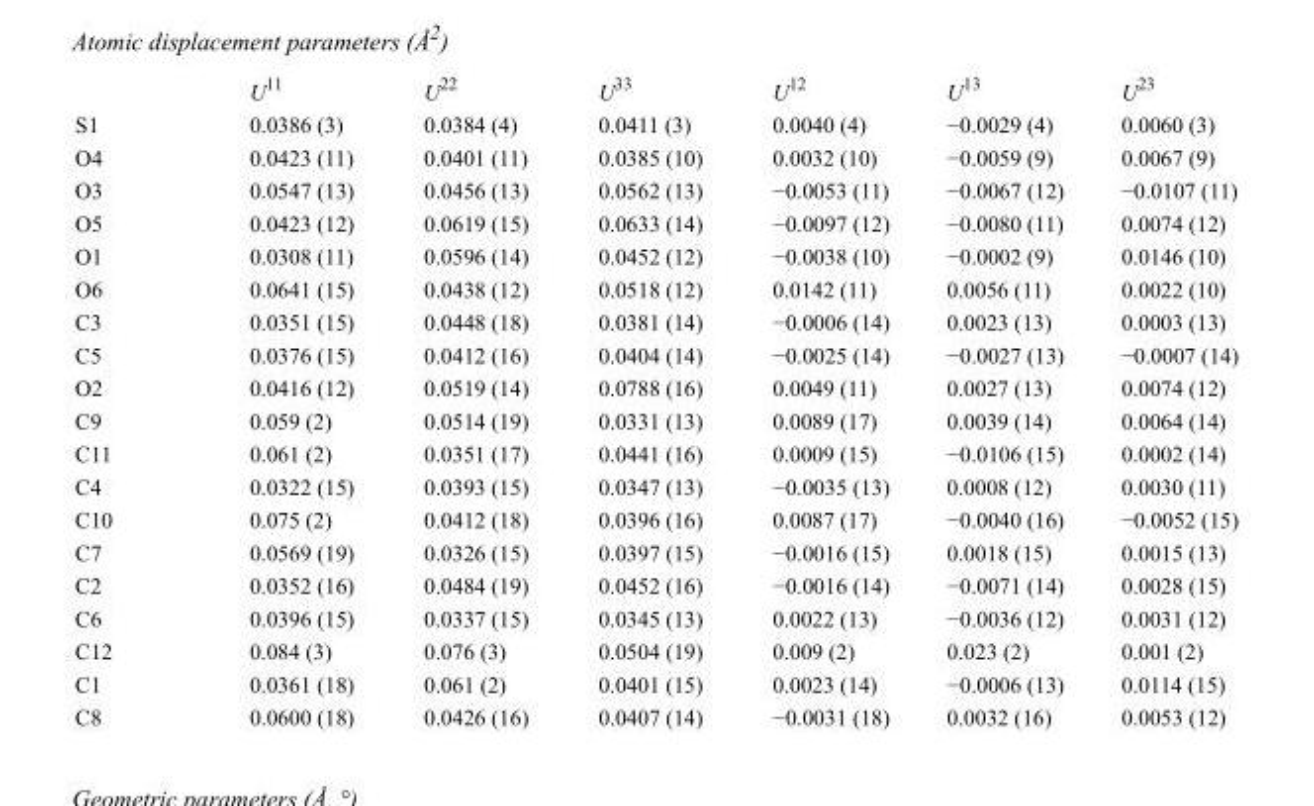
<table><thead><tr><td></td><td>U<sup>11</sup></td><td>U<sup>22</sup></td><td>U<sup>33</sup></td><td>U<sup>12</sup></td><td>U<sup>13</sup></td><td>U<sup>23</sup></td></tr></thead><tbody><tr><td>S1</td><td>0.0386 (3)</td><td>0.0384 (4)</td><td>0.0411 (3)</td><td>0.0040 (4)</td><td>−0.0029 (4)</td><td>0.0060 (3)</td></tr><tr><td>O4</td><td>0.0423 (11)</td><td>0.0401 (11)</td><td>0.0385 (10)</td><td>0.0032 (10)</td><td>−0.0059 (9)</td><td>0.0067 (9)</td></tr><tr><td>O3</td><td>0.0547 (13)</td><td>0.0456 (13)</td><td>0.0562 (13)</td><td>−0.0053 (11)</td><td>−0.0067 (12)</td><td>−0.0107 (11)</td></tr><tr><td>O5</td><td>0.0423 (12)</td><td>0.0619 (15)</td><td>0.0633 (14)</td><td>−0.0097 (12)</td><td>−0.0080 (11)</td><td>0.0074 (12)</td></tr><tr><td>O1</td><td>0.0308 (11)</td><td>0.0596 (14)</td><td>0.0452 (12)</td><td>−0.0038 (10)</td><td>−0.0002 (9)</td><td>0.0146 (10)</td></tr><tr><td>O6</td><td>0.0641 (15)</td><td>0.0438 (12)</td><td>0.0518 (12)</td><td>0.0142 (11)</td><td>0.0056 (11)</td><td>0.0022 (10)</td></tr><tr><td>C3</td><td>0.0351 (15)</td><td>0.0448 (18)</td><td>0.0381 (14)</td><td>−0.0006 (14)</td><td>0.0023 (13)</td><td>0.0003 (13)</td></tr><tr><td>C5</td><td>0.0376 (15)</td><td>0.0412 (16)</td><td>0.0404 (14)</td><td>−0.0025 (14)</td><td>−0.0027 (13)</td><td>−0.0007 (14)</td></tr><tr><td>O2</td><td>0.0416 (12)</td><td>0.0519 (14)</td><td>0.0788 (16)</td><td>0.0049 (11)</td><td>0.0027 (13)</td><td>0.0074 (12)</td></tr><tr><td>C9</td><td>0.059 (2)</td><td>0.0514 (19)</td><td>0.0331 (13)</td><td>0.0089 (17)</td><td>0.0039 (14)</td><td>0.0064 (14)</td></tr><tr><td>C11</td><td>0.061 (2)</td><td>0.0351 (17)</td><td>0.0441 (16)</td><td>0.0009 (15)</td><td>−0.0106 (15)</td><td>0.0002 (14)</td></tr><tr><td>C4</td><td>0.0322 (15)</td><td>0.0393 (15)</td><td>0.0347 (13)</td><td>−0.0035 (13)</td><td>0.0008 (12)</td><td>0.0030 (11)</td></tr><tr><td>C10</td><td>0.075 (2)</td><td>0.0412 (18)</td><td>0.0396 (16)</td><td>0.0087 (17)</td><td>−0.0040 (16)</td><td>−0.0052 (15)</td></tr><tr><td>C7</td><td>0.0569 (19)</td><td>0.0326 (15)</td><td>0.0397 (15)</td><td>−0.0016 (15)</td><td>0.0018 (15)</td><td>0.0015 (13)</td></tr><tr><td>C2</td><td>0.0352 (16)</td><td>0.0484 (19)</td><td>0.0452 (16)</td><td>−0.0016 (14)</td><td>−0.0071 (14)</td><td>0.0028 (15)</td></tr><tr><td>C6</td><td>0.0396 (15)</td><td>0.0337 (15)</td><td>0.0345 (13)</td><td>0.0022 (13)</td><td>−0.0036 (12)</td><td>0.0031 (12)</td></tr><tr><td>C12</td><td>0.084 (3)</td><td>0.076 (3)</td><td>0.0504 (19)</td><td>0.009 (2)</td><td>0.023 (2)</td><td>0.001 (2)</td></tr><tr><td>C1</td><td>0.0361 (18)</td><td>0.061 (2)</td><td>0.0401 (15)</td><td>0.0023 (14)</td><td>−0.0006 (13)</td><td>0.0114 (15)</td></tr><tr><td>C8</td><td>0.0600 (18)</td><td>0.0426 (16)</td><td>0.0407 (14)</td><td>−0.0031 (18)</td><td>0.0032 (16)</td><td>0.0053 (12)</td></tr></tbody></table>